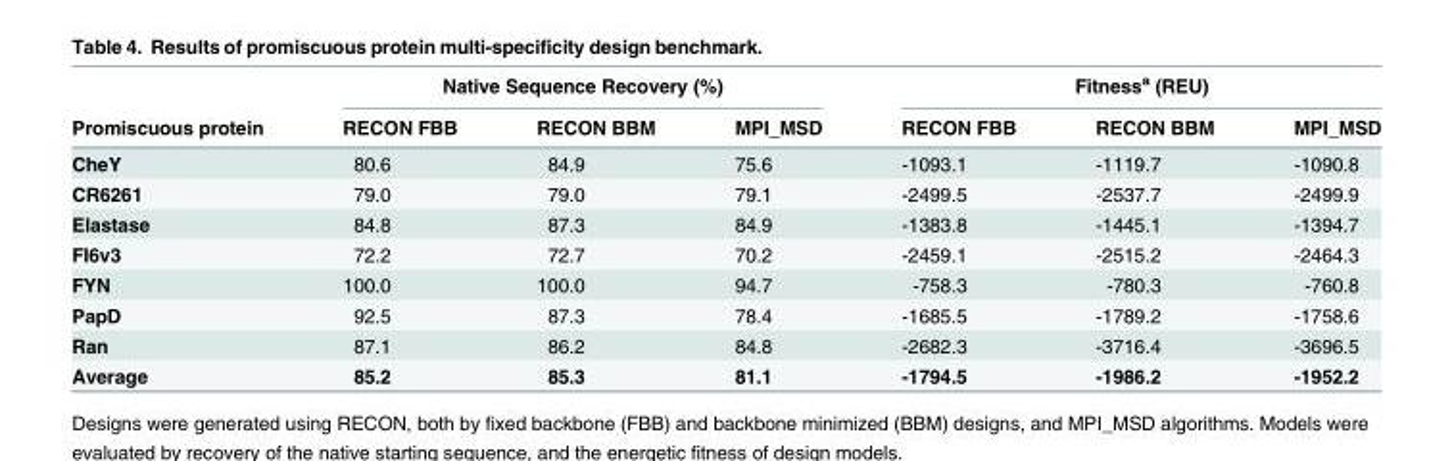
<table><thead><tr><td rowspan="2">Promiscuous protein</td><td colspan="3">Native Sequence Recovery (%)</td><td colspan="3">Fitness<sup>a</sup> (REU)</td></tr><tr><td>RECON FBB</td><td>RECON BBM</td><td>MPI_MSD</td><td>RECON FBB</td><td>RECON BBM</td><td>MPI_MSD</td></tr></thead><tbody><tr><td>CheY</td><td>80.6</td><td>84.9</td><td>75.6</td><td>-1093.1</td><td>-1119.7</td><td>-1090.8</td></tr><tr><td>CR6261</td><td>79.0</td><td>79.0</td><td>79.1</td><td>-2499.5</td><td>-2537.7</td><td>-2499.9</td></tr><tr><td>Elastase</td><td>84.8</td><td>87.3</td><td>84.9</td><td>-1383.8</td><td>-1445.1</td><td>-1394.7</td></tr><tr><td>FI6v3</td><td>72.2</td><td>72.7</td><td>70.2</td><td>-2459.1</td><td>-2515.2</td><td>-2464.3</td></tr><tr><td>FYN</td><td>100.0</td><td>100.0</td><td>94.7</td><td>-758.3</td><td>-780.3</td><td>-760.8</td></tr><tr><td>PapD</td><td>92.5</td><td>87.3</td><td>78.4</td><td>-1685.5</td><td>-1789.2</td><td>-1758.6</td></tr><tr><td>Ran</td><td>87.1</td><td>86.2</td><td>84.8</td><td>-2682.3</td><td>-3716.4</td><td>-3696.5</td></tr><tr><td>Average</td><td>85.2</td><td>85.3</td><td>81.1</td><td>-1794.5</td><td>-1986.2</td><td>-1952.2</td></tr></tbody></table>